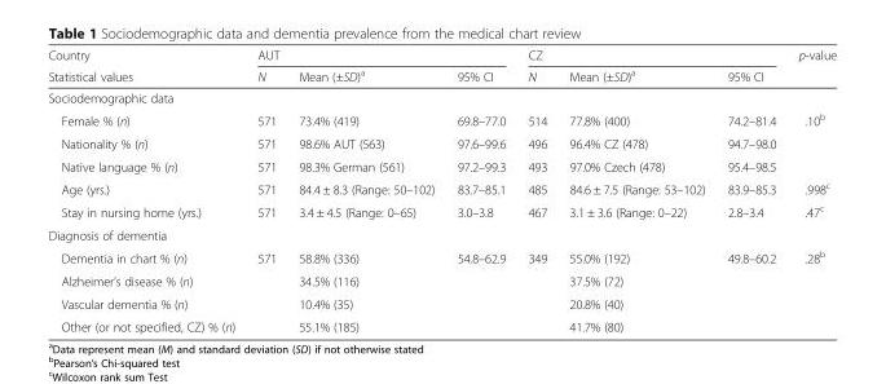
<table><thead><tr><td rowspan="2">Country Statistical values</td><td colspan="3">AUT</td><td colspan="3">CZ</td><td rowspan="2">p-value</td></tr><tr><td>N</td><td>Mean (±SD)<sup>a</sup></td><td>95% CI</td><td>N</td><td>Mean (±SD)<sup>a</sup></td><td>95% CI</td></tr></thead><tbody><tr><td colspan="8">Sociodemographic data</td></tr><tr><td>Female % (n)</td><td>571</td><td>73.4% (419)</td><td>69.8–77.0</td><td>514</td><td>77.8% (400)</td><td>74.2–81.4</td><td>.10<sup>b</sup></td></tr><tr><td>Nationality % (n)</td><td>571</td><td>98.6% AUT (563)</td><td>97.6–99.6</td><td>496</td><td>96.4% CZ (478)</td><td>94.7–98.0</td><td></td></tr><tr><td>Native language % (n)</td><td>571</td><td>98.3% German (561)</td><td>97.2–99.3</td><td>493</td><td>97.0% Czech (478)</td><td>95.4–98.5</td><td></td></tr><tr><td>Age (yrs.)</td><td>571</td><td>84.4 ± 8.3 (Range: 50–102)</td><td>83.7–85.1</td><td>485</td><td>84.6 ± 7.5 (Range: 53–102)</td><td>83.9–85.3</td><td>.998<sup>c</sup></td></tr><tr><td>Stay in nursing home (yrs.)</td><td>571</td><td>3.4 ± 4.5 (Range: 0–65)</td><td>3.0–3.8</td><td>467</td><td>3.1 ± 3.6 (Range: 0–22)</td><td>2.8–3.4</td><td>.47<sup>c</sup></td></tr><tr><td colspan="8">Diagnosis of dementia</td></tr><tr><td>Dementia in chart % (n)</td><td>571</td><td>58.8% (336)</td><td>54.8–62.9</td><td>349</td><td>55.0% (192)</td><td>49.8–60.2</td><td>.28<sup>b</sup></td></tr><tr><td>Alzheimer’s disease % (n)</td><td></td><td>34.5% (116)</td><td></td><td></td><td>37.5% (72)</td><td></td><td></td></tr><tr><td>Vascular dementia % (n)</td><td></td><td>10.4% (35)</td><td></td><td></td><td>20.8% (40)</td><td></td><td></td></tr><tr><td>Other (or not specified, CZ) % (n)</td><td></td><td>55.1% (185)</td><td></td><td></td><td>41.7% (80)</td><td></td><td></td></tr></tbody></table>